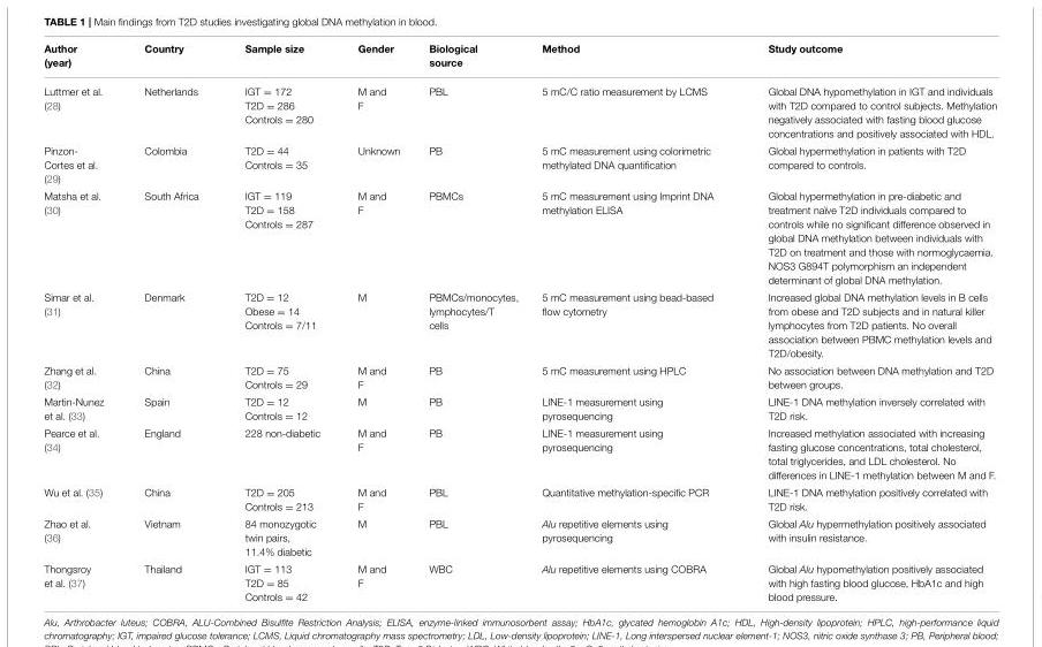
<table><thead><tr><td>Author (year)</td><td>Country</td><td>Sample size</td><td>Gender</td><td>Biological source</td><td>Method</td><td>Study outcome</td></tr></thead><tbody><tr><td>Luttmer et al. (28)</td><td>Netherlands</td><td>IGT = 172 T2D = 286 Controls = 280</td><td>M and F</td><td>PBL</td><td>5 mC/C ratio measurement by LCMS</td><td>Global DNA hypomethylation in IGT and individuals with T2D compared to control subjects. Methylation negatively associated with fasting blood glucose concentrations and positively associated with HDL.</td></tr><tr><td>Pinzon- Cortes et al. (29)</td><td>Colombia</td><td>T2D = 44 Controls = 35</td><td>Unknown</td><td>PB</td><td>5 mC measurement using colorimetric methylated DNA quantification</td><td>Global hypermethylation in patients with T2D compared to controls.</td></tr><tr><td>Matsha et al. (30)</td><td>South Africa</td><td>IGT = 119 T2D = 158 Controls = 287</td><td>M and F</td><td>PBMCs</td><td>5 mC measurement using Imprint DNA methylation ELISA</td><td>Global hypermethylation in pre-diabetic and treatment naïve T2D individuals compared to controls while no significant difference observed in global DNA methylation between individuals with T2D on treatment and those with normoglycaemia. NOS3 G894T polymorphism an independent determinant of global DNA methylation.</td></tr><tr><td>Simar et al. (31)</td><td>Denmark</td><td>T2D = 12 Obese = 14 Controls = 7/11</td><td>M</td><td>PBMCs/monocytes, lymphocytes/T cells</td><td>5 mC measurement using bead-based flow cytometry</td><td>Increased global DNA methylation levels in B cells from obese and T2D subjects and in natural killer lymphocytes from T2D patients. No overall association between PBMC methylation levels and T2D/obesity.</td></tr><tr><td>Zhang et al. (32)</td><td>China</td><td>T2D = 75 Controls = 29</td><td>M and F</td><td>PB</td><td>5 mC measurement using HPLC</td><td>No association between DNA methylation and T2D between groups.</td></tr><tr><td>Martin-Nunez et al. (33)</td><td>Spain</td><td>T2D = 12 Controls = 12</td><td>M</td><td>PB</td><td>LINE-1 measurement using pyrosequencing</td><td>LINE-1 DNA methylation inversely correlated with T2D risk.</td></tr><tr><td>Pearce et al. (34)</td><td>England</td><td>228 non-diabetic</td><td>M and F</td><td>PB</td><td>LINE-1 measurement using pyrosequencing</td><td>Increased methylation associated with increasing fasting glucose concentrations, total cholesterol, total triglycerides, and LDL cholesterol. No differences in LINE-1 methylation between M and F.</td></tr><tr><td>Wu et al. (35)</td><td>China</td><td>T2D = 205 Controls = 213</td><td>M and F</td><td>PBL</td><td>Quantitative methylation-specific PCR</td><td>LINE-1 DNA methylation positively correlated with T2D risk.</td></tr><tr><td>Zhao et al. (36)</td><td>Vietnam</td><td>84 monozygotic twin pairs, 11.4% diabetic</td><td>M</td><td>PBL</td><td>Alu repetitive elements using pyrosequencing</td><td>Global Alu hypermethylation positively associated with insulin resistance.</td></tr><tr><td>Thongsroy et al. (37)</td><td>Thailand</td><td>IGT = 113 T2D = 85 Controls = 42</td><td>M and F</td><td>WBC</td><td>Alu repetitive elements using COBRA</td><td>Global Alu hypomethylation positively associated with high fasting blood glucose, HbA1c and high blood pressure.</td></tr></tbody></table>